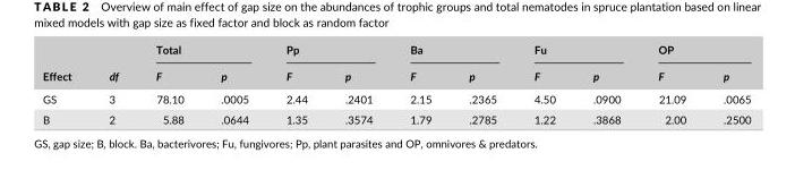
<table><thead><tr><td rowspan="2">Effect</td><td rowspan="2">df</td><td colspan="2">Total</td><td colspan="2">Pp</td><td colspan="2">Ba</td><td colspan="2">Fu</td><td colspan="2">OP</td></tr><tr><td>F</td><td>p</td><td>F</td><td>p</td><td>F</td><td>p</td><td>F</td><td>p</td><td>F</td><td>p</td></tr></thead><tbody><tr><td>GS</td><td>3</td><td>78.10</td><td>.0005</td><td>2.44</td><td>.2401</td><td>2.15</td><td>.2365</td><td>4.50</td><td>.0900</td><td>21.09</td><td>.0065</td></tr><tr><td>B</td><td>2</td><td>5.88</td><td>.0644</td><td>1.35</td><td>.3574</td><td>1.79</td><td>.2785</td><td>1.22</td><td>.3868</td><td>2.00</td><td>.2500</td></tr></tbody></table>